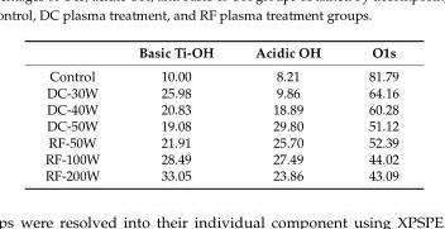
<table><thead><tr><td></td><td>Basic Ti-OH</td><td>Acidic OH</td><td>O1s</td></tr></thead><tbody><tr><td>Control</td><td>10.00</td><td>8.21</td><td>81.79</td></tr><tr><td>DC-30W</td><td>25.98</td><td>9.86</td><td>64.16</td></tr><tr><td>DC-40W</td><td>20.83</td><td>18.89</td><td>60.28</td></tr><tr><td>DC-50W</td><td>19.08</td><td>29.80</td><td>51.12</td></tr><tr><td>RF-50W</td><td>21.91</td><td>25.70</td><td>52.39</td></tr><tr><td>RF-100W</td><td>28.49</td><td>27.49</td><td>44.02</td></tr><tr><td>RF-200W</td><td>33.05</td><td>23.86</td><td>43.09</td></tr></tbody></table>